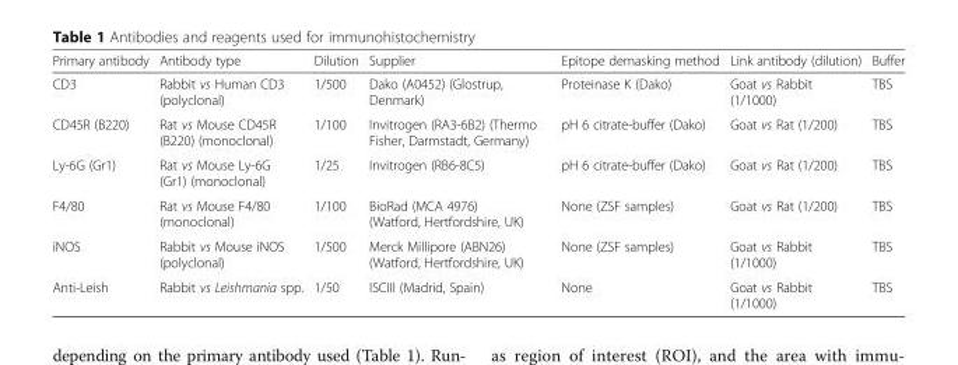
<table><thead><tr><td>Primary antibody</td><td>Antibody type</td><td>Dilution</td><td>Supplier</td><td>Epitope demasking method</td><td>Link antibody (dilution)</td><td>Buffer</td></tr></thead><tbody><tr><td>CD3</td><td>Rabbit vs Human CD3 (polyclonal)</td><td>1/500</td><td>Dako (A0452) (Glostrup, Denmark)</td><td>Proteinase K (Dako)</td><td>Goat vs Rabbit (1/1000)</td><td>TBS</td></tr><tr><td>CD45R (B220)</td><td>Rat vs Mouse CD45R (B220) (monoclonal)</td><td>1/100</td><td>Invitrogen (RA3-6B2) (Thermo Fisher, Darmstadt, Germany)</td><td>pH 6 citrate-buffer (Dako)</td><td>Goat vs Rat (1/200)</td><td>TBS</td></tr><tr><td>Ly-6G (Gr1)</td><td>Rat vs Mouse Ly-6G (Gr1) (monoclonal)</td><td>1/25</td><td>Invitrogen (RB6-8C5)</td><td>pH 6 citrate-buffer (Dako)</td><td>Goat vs Rat (1/200)</td><td>TBS</td></tr><tr><td>F4/80</td><td>Rat vs Mouse F4/80 (monoclonal)</td><td>1/100</td><td>BioRad (MCA 4976) (Watford, Hertfordshire, UK)</td><td>None (ZSF samples)</td><td>Goat vs Rat (1/200)</td><td>TBS</td></tr><tr><td>iNOS</td><td>Rabbit vs Mouse iNOS (polyclonal)</td><td>1/500</td><td>Merck Millipore (ABN26) (Watford, Hertfordshire, UK)</td><td>None (ZSF samples)</td><td>Goat vs Rabbit (1/1000)</td><td>TBS</td></tr><tr><td>Anti-Leish</td><td>Rabbit vs Leishmania spp.</td><td>1/50</td><td>ISCIII (Madrid, Spain)</td><td>None</td><td>Goat vs Rabbit (1/1000)</td><td>TBS</td></tr></tbody></table>